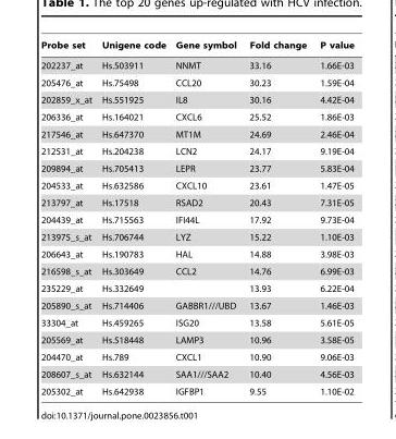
<table><thead><tr><td>Probe set</td><td>Unigene code</td><td>Gene symbol</td><td>Fold change</td><td>P value</td></tr></thead><tbody><tr><td>202237_at</td><td>Hs.503911</td><td>NNMT</td><td>33.16</td><td>1.66E-03</td></tr><tr><td>205476_at</td><td>Hs.75498</td><td>CCL20</td><td>30.23</td><td>1.59E-04</td></tr><tr><td>202859_x_at</td><td>Hs.551925</td><td>IL8</td><td>30.16</td><td>4.42E-04</td></tr><tr><td>206336_at</td><td>Hs.164021</td><td>CXCL6</td><td>25.52</td><td>1.86E-03</td></tr><tr><td>217546_at</td><td>Hs.647370</td><td>MT1M</td><td>24.69</td><td>2.46E-04</td></tr><tr><td>212531_at</td><td>Hs.204238</td><td>LCN2</td><td>24.17</td><td>9.19E-04</td></tr><tr><td>209894_at</td><td>Hs.705413</td><td>LEPR</td><td>23.77</td><td>5.83E-04</td></tr><tr><td>204533_at</td><td>Hs.632586</td><td>CXCL10</td><td>23.61</td><td>1.47E-05</td></tr><tr><td>213797_at</td><td>Hs.17518</td><td>RSAD2</td><td>20.43</td><td>7.31E-05</td></tr><tr><td>204439_at</td><td>Hs.715563</td><td>IFI44L</td><td>17.92</td><td>9.73E-04</td></tr><tr><td>213975_s_at</td><td>Hs.706744</td><td>LYZ</td><td>15.22</td><td>1.10E-03</td></tr><tr><td>206643_at</td><td>Hs.190783</td><td>HAL</td><td>14.88</td><td>3.98E-03</td></tr><tr><td>216598_s_at</td><td>Hs.303649</td><td>CCL2</td><td>14.76</td><td>6.99E-03</td></tr><tr><td>235229_at</td><td>Hs.332649</td><td></td><td>13.93</td><td>6.22E-04</td></tr><tr><td>205890_s_at</td><td>Hs.714406</td><td>GABBR1///UBD</td><td>13.67</td><td>1.46E-03</td></tr><tr><td>33304_at</td><td>Hs.459265</td><td>ISG20</td><td>13.58</td><td>5.61E-05</td></tr><tr><td>205569_at</td><td>Hs.518448</td><td>LAMP3</td><td>10.96</td><td>3.58E-05</td></tr><tr><td>204470_at</td><td>Hs.789</td><td>CXCL1</td><td>10.90</td><td>9.06E-03</td></tr><tr><td>208607_s_at</td><td>Hs.632144</td><td>SAA1///SAA2</td><td>10.40</td><td>4.56E-03</td></tr><tr><td>205302_at</td><td>Hs.642938</td><td>IGFBP1</td><td>9.55</td><td>1.10E-02</td></tr></tbody></table>